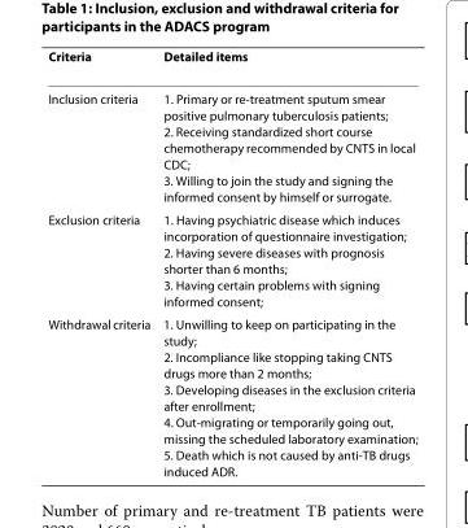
<table><thead><tr><td>Criteria</td><td>Detailed items</td></tr></thead><tbody><tr><td>Inclusion criteria</td><td>1. Primary or re-treatment sputum smear positive pulmonary tuberculosis patients; 2. Receiving standardized short course chemotherapy recommended by CNTS in local CDC; 3. Willing to join the study and signing the informed consent by himself or surrogate.</td></tr><tr><td>Exclusion criteria</td><td>1. Having psychiatric disease which induces incorporation of questionnaire investigation; 2. Having severe diseases with prognosis shorter than 6 months; 3. Having certain problems with signing informed consent;</td></tr><tr><td>Withdrawal criteria</td><td>1. Unwilling to keep on participating in the study; 2. Incompliance like stopping taking CNTS drugs more than 2 months; 3. Developing diseases in the exclusion criteria after enrollment; 4. Out-migrating or temporarily going out, missing the scheduled laboratory examination; 5. Death which is not caused by anti-TB drugs induced ADR.</td></tr></tbody></table>